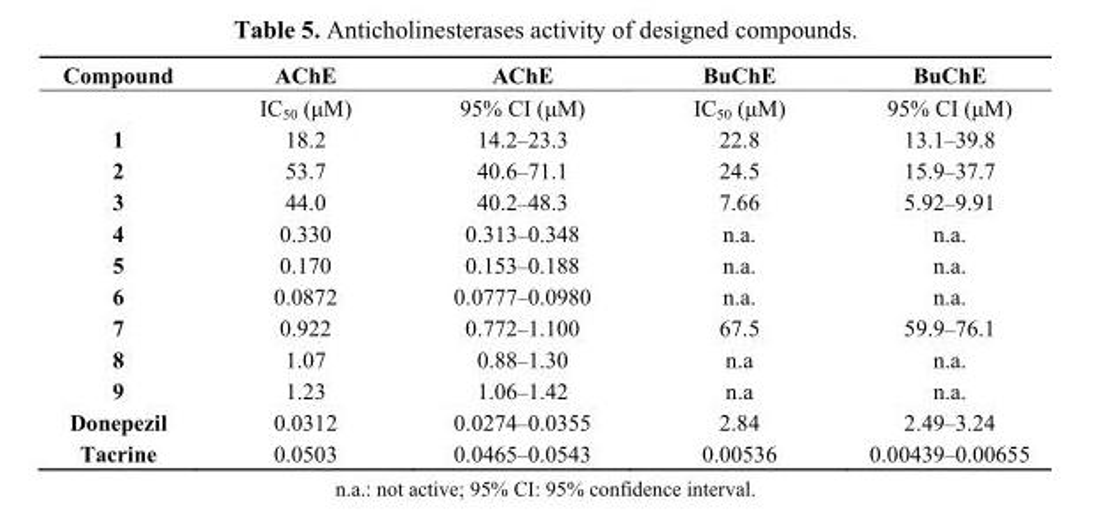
<table><thead><tr><td rowspan="2">Compound</td><td rowspan="2">AChE IC50 (μM)</td><td rowspan="2">AChE 95% CI (μM)</td><td rowspan="2">BuChE IC50 (μM)</td><td rowspan="2">BuChE 95% CI (μM)</td></tr><tr></tr></thead><tbody><tr><td>1</td><td>18.2</td><td>14.2–23.3</td><td>22.8</td><td>13.1–39.8</td></tr><tr><td>2</td><td>53.7</td><td>40.6–71.1</td><td>24.5</td><td>15.9–37.7</td></tr><tr><td>3</td><td>44.0</td><td>40.2–48.3</td><td>7.66</td><td>5.92–9.91</td></tr><tr><td>4</td><td>0.330</td><td>0.313–0.348</td><td>n.a.</td><td>n.a.</td></tr><tr><td>5</td><td>0.170</td><td>0.153–0.188</td><td>n.a.</td><td>n.a.</td></tr><tr><td>6</td><td>0.0872</td><td>0.0777–0.0980</td><td>n.a.</td><td>n.a.</td></tr><tr><td>7</td><td>0.922</td><td>0.772–1.100</td><td>67.5</td><td>59.9–76.1</td></tr><tr><td>8</td><td>1.07</td><td>0.88–1.30</td><td>n.a</td><td>n.a.</td></tr><tr><td>9</td><td>1.23</td><td>1.06–1.42</td><td>n.a</td><td>n.a.</td></tr><tr><td>Donepezil</td><td>0.0312</td><td>0.0274–0.0355</td><td>2.84</td><td>2.49–3.24</td></tr><tr><td>Tacrine</td><td>0.0503</td><td>0.0465–0.0543</td><td>0.00536</td><td>0.00439–0.00655</td></tr></tbody></table>